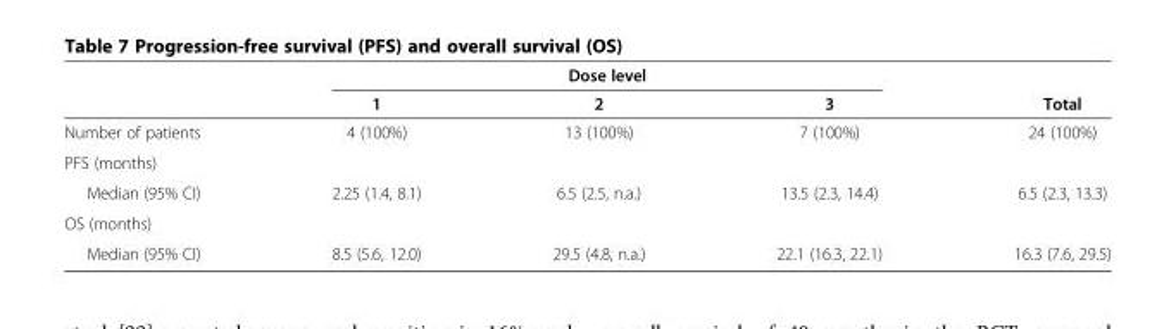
<table><thead><tr><td rowspan="2"></td><td colspan="3">Dose level</td><td rowspan="2">Total</td></tr><tr><td>1</td><td>2</td><td>3</td></tr></thead><tbody><tr><td>Number of patients</td><td>4 (100%)</td><td>13 (100%)</td><td>7 (100%)</td><td>24 (100%)</td></tr><tr><td colspan="5">PFS (months)</td></tr><tr><td>Median (95% CI)</td><td>2.25 (1.4, 8.1)</td><td>6.5 (2.5, n.a.)</td><td>13.5 (2.3, 14.4)</td><td>6.5 (2.3, 13.3)</td></tr><tr><td colspan="5">OS (months)</td></tr><tr><td>Median (95% CI)</td><td>8.5 (5.6, 12.0)</td><td>29.5 (4.8, n.a.)</td><td>22.1 (16.3, 22.1)</td><td>16.3 (7.6, 29.5)</td></tr></tbody></table>